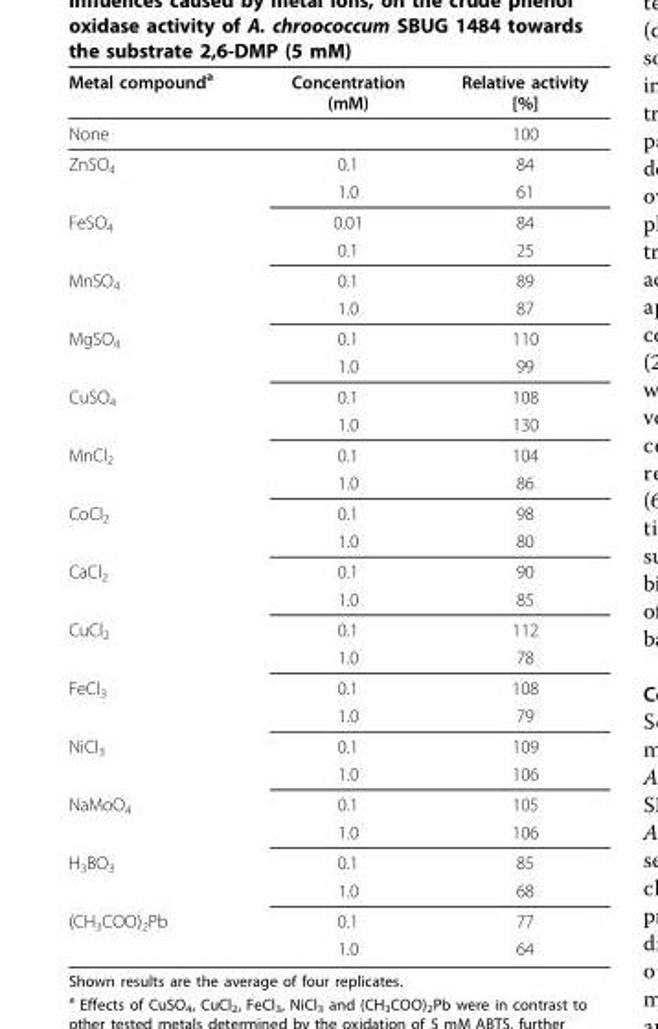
<table><thead><tr><td>Metal compound<sup>a</sup></td><td>Concentration (mM)</td><td>Relative activity [%]</td></tr></thead><tbody><tr><td>None</td><td></td><td>100</td></tr><tr><td rowspan="2">ZnSO<sub>4</sub></td><td>0.1</td><td>84</td></tr><tr><td>1.0</td><td>61</td></tr><tr><td rowspan="2">FeSO<sub>4</sub></td><td>0.01</td><td>84</td></tr><tr><td>0.1</td><td>25</td></tr><tr><td rowspan="2">MnSO<sub>4</sub></td><td>0.1</td><td>89</td></tr><tr><td>1.0</td><td>87</td></tr><tr><td rowspan="2">MgSO<sub>4</sub></td><td>0.1</td><td>110</td></tr><tr><td>1.0</td><td>99</td></tr><tr><td rowspan="2">CuSO<sub>4</sub></td><td>0.1</td><td>108</td></tr><tr><td>1.0</td><td>130</td></tr><tr><td rowspan="2">MnCl<sub>2</sub></td><td>0.1</td><td>104</td></tr><tr><td>1.0</td><td>86</td></tr><tr><td rowspan="2">CoCl<sub>2</sub></td><td>0.1</td><td>98</td></tr><tr><td>1.0</td><td>80</td></tr><tr><td rowspan="2">CaCl<sub>2</sub></td><td>0.1</td><td>90</td></tr><tr><td>1.0</td><td>85</td></tr><tr><td rowspan="2">CuCl<sub>2</sub></td><td>0.1</td><td>112</td></tr><tr><td>1.0</td><td>78</td></tr><tr><td rowspan="2">FeCl<sub>3</sub></td><td>0.1</td><td>108</td></tr><tr><td>1.0</td><td>79</td></tr><tr><td rowspan="2">NiCl<sub>3</sub></td><td>0.1</td><td>109</td></tr><tr><td>1.0</td><td>106</td></tr><tr><td rowspan="2">NaMoO<sub>4</sub></td><td>0.1</td><td>105</td></tr><tr><td>1.0</td><td>106</td></tr><tr><td rowspan="2">H<sub>3</sub>BO<sub>3</sub></td><td>0.1</td><td>85</td></tr><tr><td>1.0</td><td>68</td></tr><tr><td rowspan="2">(CH<sub>3</sub>COO)<sub>2</sub>Pb</td><td>0.1</td><td>77</td></tr><tr><td>1.0</td><td>64</td></tr></tbody></table>